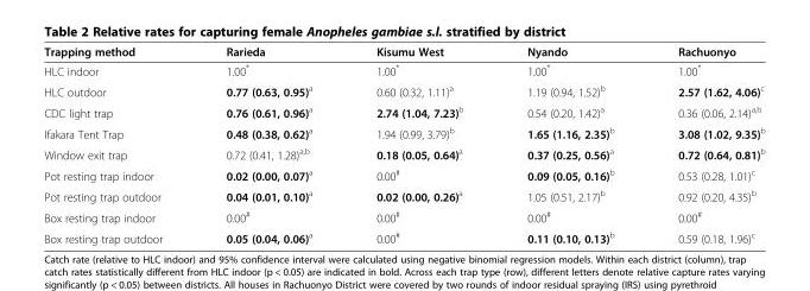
<table><thead><tr><td>Trapping method</td><td>Rarieda</td><td>Kisumu West</td><td>Nyando</td><td>Rachuonyo</td></tr></thead><tbody><tr><td>HLC indoor</td><td>1.00*</td><td>1.00*</td><td>1.00*</td><td>1.00*</td></tr><tr><td>HLC outdoor</td><td>0.77 (0.63, 0.95)<sup>a</sup></td><td>0.60 (0.32, 1.11)<sup>a</sup></td><td>1.19 (0.94, 1.52)<sup>b</sup></td><td>2.57 (1.62, 4.06)<sup>c</sup></td></tr><tr><td>CDC light trap</td><td>0.76 (0.61, 0.96)<sup>a</sup></td><td>2.74 (1.04, 7.23)<sup>b</sup></td><td>0.54 (0.20, 1.42)<sup>a</sup></td><td>0.36 (0.06, 2.14)<sup>a,b</sup></td></tr><tr><td>Ifakara Tent Trap</td><td>0.48 (0.38, 0.62)<sup>a</sup></td><td>1.94 (0.99, 3.79)<sup>b</sup></td><td>1.65 (1.16, 2.35)<sup>b</sup></td><td>3.08 (1.02, 9.35)<sup>b</sup></td></tr><tr><td>Window exit trap</td><td>0.72 (0.41, 1.28)<sup>a,b</sup></td><td>0.18 (0.05, 0.64)<sup>a</sup></td><td>0.37 (0.25, 0.56)<sup>a</sup></td><td>0.72 (0.64, 0.81)<sup>b</sup></td></tr><tr><td>Pot resting trap indoor</td><td>0.02 (0.00, 0.07)<sup>a</sup></td><td>0.00<sup>#</sup></td><td>0.09 (0.05, 0.16)<sup>b</sup></td><td>0.53 (0.28, 1.01)<sup>c</sup></td></tr><tr><td>Pot resting trap outdoor</td><td>0.04 (0.01, 0.10)<sup>a</sup></td><td>0.02 (0.00, 0.26)<sup>a</sup></td><td>1.05 (0.51, 2.17)<sup>b</sup></td><td>0.92 (0.20, 4.35)<sup>b</sup></td></tr><tr><td>Box resting trap indoor</td><td>0.00<sup>#</sup></td><td>0.00<sup>#</sup></td><td>0.00<sup>#</sup></td><td>0.00<sup>#</sup></td></tr><tr><td>Box resting trap outdoor</td><td>0.05 (0.04, 0.06)<sup>a</sup></td><td>0.00<sup>#</sup></td><td>0.11 (0.10, 0.13)<sup>b</sup></td><td>0.59 (0.18, 1.96)<sup>c</sup></td></tr></tbody></table>